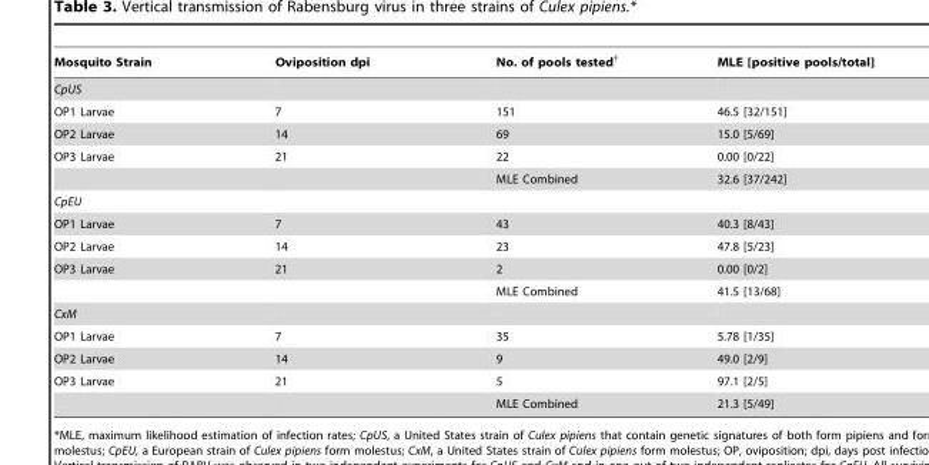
<table><thead><tr><td>Mosquito Strain</td><td>Oviposition dpi</td><td>No. of pools tested†</td><td>MLE [positive pools/total]</td></tr></thead><tbody><tr><td colspan="4">CpUS</td></tr><tr><td>OP1 Larvae</td><td>7</td><td>151</td><td>46.5 [32/151]</td></tr><tr><td>OP2 Larvae</td><td>14</td><td>69</td><td>15.0 [5/69]</td></tr><tr><td rowspan="2">OP3 Larvae</td><td>21</td><td>22</td><td>0.00 [0/22]</td></tr><tr><td></td><td>MLE Combined</td><td>32.6 [37/242]</td></tr><tr><td colspan="4">CpEU</td></tr><tr><td>OP1 Larvae</td><td>7</td><td>43</td><td>40.3 [8/43]</td></tr><tr><td>OP2 Larvae</td><td>14</td><td>23</td><td>47.8 [5/23]</td></tr><tr><td rowspan="2">OP3 Larvae</td><td>21</td><td>2</td><td>0.00 [0/2]</td></tr><tr><td></td><td>MLE Combined</td><td>41.5 [13/68]</td></tr><tr><td colspan="4">CxM</td></tr><tr><td>OP1 Larvae</td><td>7</td><td>35</td><td>5.78 [1/35]</td></tr><tr><td>OP2 Larvae</td><td>14</td><td>9</td><td>49.0 [2/9]</td></tr><tr><td rowspan="2">OP3 Larvae</td><td>21</td><td>5</td><td>97.1 [2/5]</td></tr><tr><td></td><td>MLE Combined</td><td>21.3 [5/49]</td></tr></tbody></table>